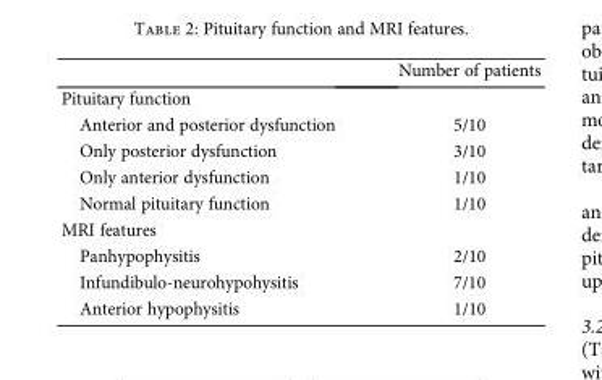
<table><thead><tr><td></td><td>Number of patients</td></tr></thead><tbody><tr><td colspan="2">Pituitary function</td></tr><tr><td>Anterior and posterior dysfunction</td><td>5/10</td></tr><tr><td>Only posterior dysfunction</td><td>3/10</td></tr><tr><td>Only anterior dysfunction</td><td>1/10</td></tr><tr><td>Normal pituitary function</td><td>1/10</td></tr><tr><td colspan="2">MRI features</td></tr><tr><td>Panhypophysitis</td><td>2/10</td></tr><tr><td>Infundibulo-neurohypohysitis</td><td>7/10</td></tr><tr><td>Anterior hypophysitis</td><td>1/10</td></tr></tbody></table>